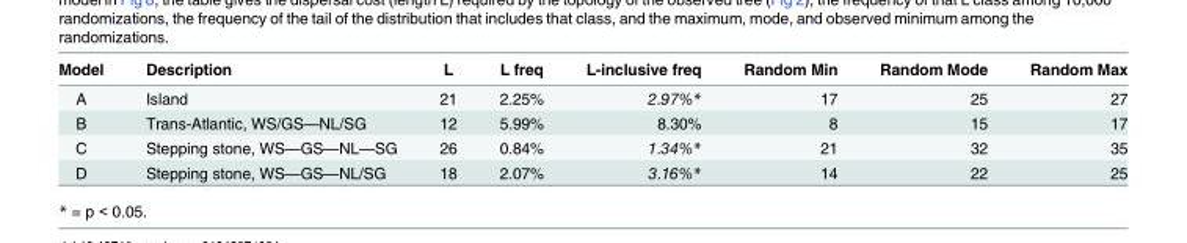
<table><thead><tr><td>Model</td><td>Description</td><td>L</td><td>L freq</td><td>L-inclusive freq</td><td>Random Min</td><td>Random Mode</td><td>Random Max</td></tr></thead><tbody><tr><td>A</td><td>Island</td><td>21</td><td>2.25%</td><td>2.97%*</td><td>17</td><td>25</td><td>27</td></tr><tr><td>B</td><td>Trans-Atlantic, WS/GS—NL/SG</td><td>12</td><td>5.99%</td><td>8.30%</td><td>8</td><td>15</td><td>17</td></tr><tr><td>C</td><td>Stepping stone, WS—GS—NL—SG</td><td>26</td><td>0.84%</td><td>1.34%*</td><td>21</td><td>32</td><td>35</td></tr><tr><td>D</td><td>Stepping stone, WS—GS—NL/SG</td><td>18</td><td>2.07%</td><td>3.16%*</td><td>14</td><td>22</td><td>25</td></tr></tbody></table>